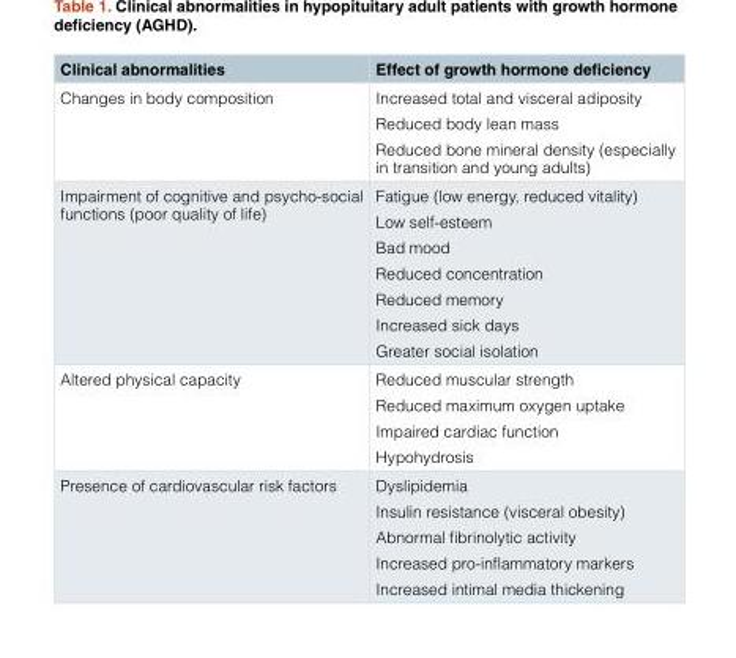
<table><thead><tr><td>Clinical abnormalities</td><td>Effect of growth hormone deficiency</td></tr></thead><tbody><tr><td>Changes in body composition</td><td>Increased total and visceral adiposity Reduced body lean mass Reduced bone mineral density (especially in transition and young adults)</td></tr><tr><td>Impairment of cognitive and psycho-social functions (poor quality of life)</td><td>Fatigue (low energy, reduced vitality) Low self-esteem Bad mood Reduced concentration Reduced memory Increased sick days Greater social isolation</td></tr><tr><td>Altered physical capacity</td><td>Reduced muscular strength Reduced maximum oxygen uptake Impaired cardiac function Hypohydrosis</td></tr><tr><td>Presence of cardiovascular risk factors</td><td>Dyslipidemia Insulin resistance (visceral obesity) Abnormal fibrinolytic activity Increased pro-inflammatory markers Increased intimal media thickening</td></tr></tbody></table>